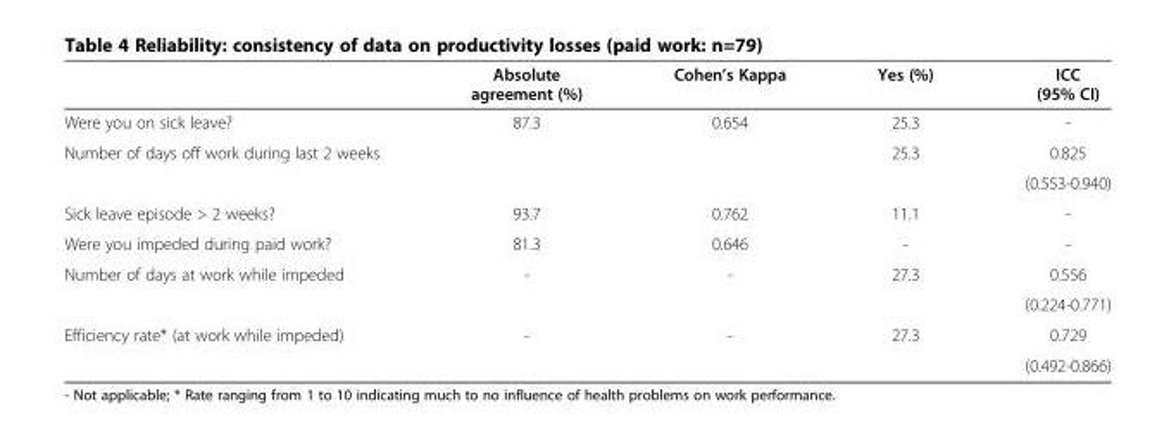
<table><thead><tr><td></td><td>Absolute agreement (%)</td><td>Cohen’s Kappa</td><td>Yes (%)</td><td>ICC (95% CI)</td></tr></thead><tbody><tr><td>Were you on sick leave?</td><td>87.3</td><td>0.654</td><td>25.3</td><td>-</td></tr><tr><td rowspan="2">Number of days off work during last 2 weeks</td><td rowspan="2"></td><td rowspan="2"></td><td rowspan="2">25.3</td><td>0.825</td></tr><tr><td>(0.553-0.940)</td></tr><tr><td>Sick leave episode &gt; 2 weeks?</td><td>93.7</td><td>0.762</td><td>11.1</td><td>-</td></tr><tr><td>Were you impeded during paid work?</td><td>81.3</td><td>0.646</td><td>-</td><td>-</td></tr><tr><td rowspan="2">Number of days at work while impeded</td><td rowspan="2">-</td><td rowspan="2">-</td><td rowspan="2">27.3</td><td>0.556</td></tr><tr><td>(0.224-0.771)</td></tr><tr><td rowspan="2">Efficiency rate* (at work while impeded)</td><td rowspan="2">-</td><td rowspan="2">-</td><td rowspan="2">27.3</td><td>0.729</td></tr><tr><td>(0.492-0.866)</td></tr></tbody></table>